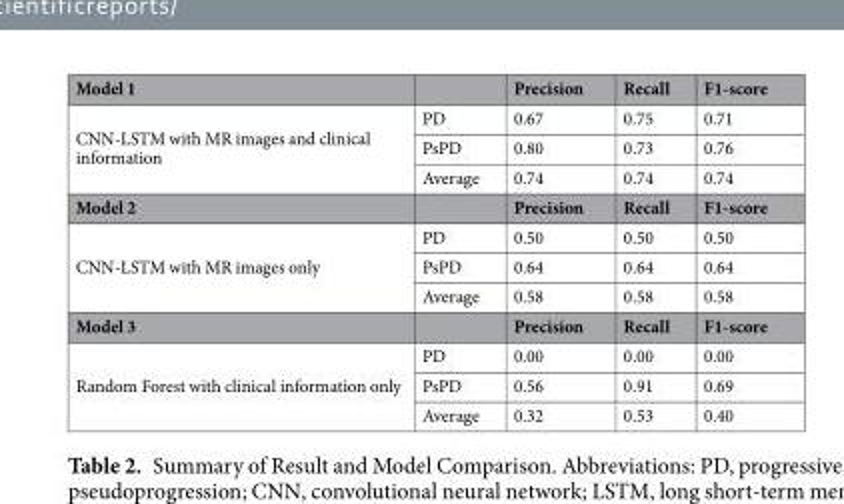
<table><thead><tr><td>Model 1</td><td></td><td>Precision</td><td>Recall</td><td>F1-score</td></tr></thead><tbody><tr><td rowspan="3">CNN-LSTM with MR images and clinical information</td><td>PD</td><td>0.67</td><td>0.75</td><td>0.71</td></tr><tr><td>PsPD</td><td>0.80</td><td>0.73</td><td>0.76</td></tr><tr><td>Average</td><td>0.74</td><td>0.74</td><td>0.74</td></tr><tr><td>Model 2</td><td></td><td>Precision</td><td>Recall</td><td>F1-score</td></tr><tr><td rowspan="3">CNN-LSTM with MR images only</td><td>PD</td><td>0.50</td><td>0.50</td><td>0.50</td></tr><tr><td>PsPD</td><td>0.64</td><td>0.64</td><td>0.64</td></tr><tr><td>Average</td><td>0.58</td><td>0.58</td><td>0.58</td></tr><tr><td>Model 3</td><td></td><td>Precision</td><td>Recall</td><td>F1-score</td></tr><tr><td rowspan="3">Random Forest with clinical information only</td><td>PD</td><td>0.00</td><td>0.00</td><td>0.00</td></tr><tr><td>PsPD</td><td>0.56</td><td>0.91</td><td>0.69</td></tr><tr><td>Average</td><td>0.32</td><td>0.53</td><td>0.40</td></tr></tbody></table>